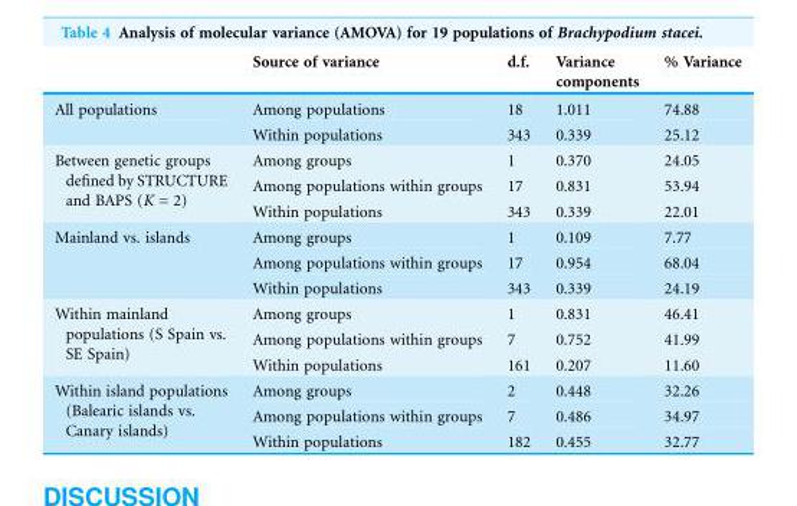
<table><thead><tr><td></td><td>Source of variance</td><td>d.f.</td><td>Variance components</td><td>% Variance</td></tr></thead><tbody><tr><td rowspan="2">All populations</td><td>Among populations</td><td>18</td><td>1.011</td><td>74.88</td></tr><tr><td>Within populations</td><td>343</td><td>0.339</td><td>25.12</td></tr><tr><td rowspan="3">Between genetic groups defined by STRUCTURE and BAPS (K = 2)</td><td>Among groups</td><td>1</td><td>0.370</td><td>24.05</td></tr><tr><td>Among populations within groups</td><td>17</td><td>0.831</td><td>53.94</td></tr><tr><td>Within populations</td><td>343</td><td>0.339</td><td>22.01</td></tr><tr><td rowspan="3">Mainland vs. islands</td><td>Among groups</td><td>1</td><td>0.109</td><td>7.77</td></tr><tr><td>Among populations within groups</td><td>17</td><td>0.954</td><td>68.04</td></tr><tr><td>Within populations</td><td>343</td><td>0.339</td><td>24.19</td></tr><tr><td rowspan="3">Within mainland populations (S Spain vs. SE Spain)</td><td>Among groups</td><td>1</td><td>0.831</td><td>46.41</td></tr><tr><td>Among populations within groups</td><td>7</td><td>0.752</td><td>41.99</td></tr><tr><td>Within populations</td><td>161</td><td>0.207</td><td>11.60</td></tr><tr><td rowspan="3">Within island populations (Balearic islands vs. Canary islands)</td><td>Among groups</td><td>2</td><td>0.448</td><td>32.26</td></tr><tr><td>Among populations within groups</td><td>7</td><td>0.486</td><td>34.97</td></tr><tr><td>Within populations</td><td>182</td><td>0.455</td><td>32.77</td></tr></tbody></table>